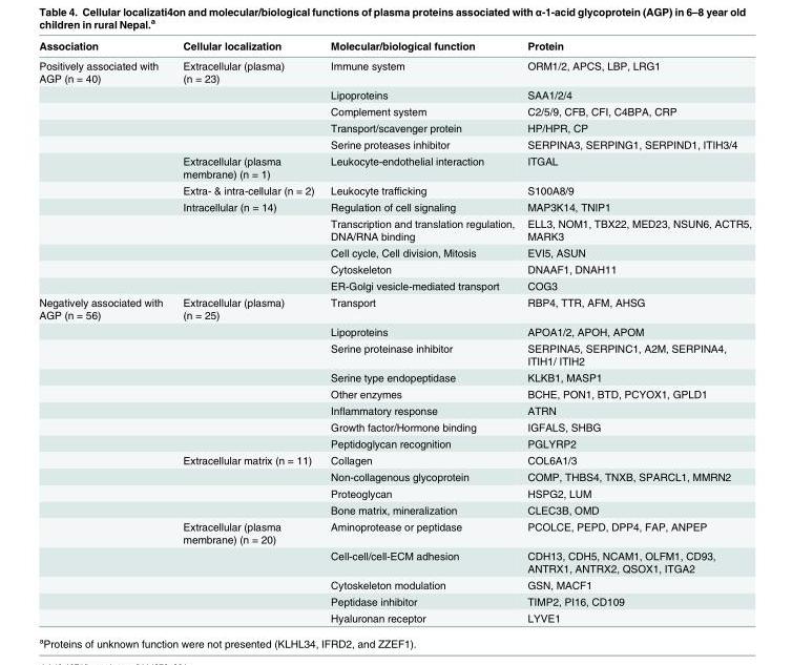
<table><thead><tr><td>Association</td><td>Cellular localization</td><td>Molecular/biological function</td><td>Protein</td></tr></thead><tbody><tr><td rowspan="12">Positively associated with AGP (n = 40)</td><td>Extracellular (plasma) (n = 23)</td><td>Immune system</td><td>ORM1/2, APCS, LBP, LRG1</td></tr><tr><td></td><td>Lipoproteins</td><td>SAA1/2/4</td></tr><tr><td></td><td>Complement system</td><td>C2/5/9, CFB, CFI, C4BPA, CRP</td></tr><tr><td></td><td>Transport/scavenger protein</td><td>HP/HPR, CP</td></tr><tr><td></td><td>Serine proteases inhibitor</td><td>SERPINA3, SERPING1, SERPIND1, ITIH3/4</td></tr><tr><td>Extracellular (plasma membrane) (n = 1)</td><td>Leukocyte-endothelial interaction</td><td>ITGAL</td></tr><tr><td>Extra- &amp; intra-cellular (n = 2)</td><td>Leukocyte trafficking</td><td>S100A8/9</td></tr><tr><td>Intracellular (n = 14)</td><td>Regulation of cell signaling</td><td>MAP3K14, TNIP1</td></tr><tr><td></td><td>Transcription and translation regulation, DNA/RNA binding</td><td>ELL3, NOM1, TBX22, MED23, NSUN6, ACTR5, MARK3</td></tr><tr><td></td><td>Cell cycle, Cell division, Mitosis</td><td>EVI5, ASUN</td></tr><tr><td></td><td>Cytoskeleton</td><td>DNAAF1, DNAH11</td></tr><tr><td></td><td>ER-Golgi vesicle-mediated transport</td><td>COG3</td></tr><tr><td rowspan="17">Negatively associated with AGP (n = 56)</td><td>Extracellular (plasma) (n = 25)</td><td>Transport</td><td>RBP4, TTR, AFM, AHSG</td></tr><tr><td></td><td>Lipoproteins</td><td>APOA1/2, APOH, APOM</td></tr><tr><td></td><td>Serine proteinase inhibitor</td><td>SERPINA5, SERPINC1, A2M, SERPINA4, ITIH1/ ITIH2</td></tr><tr><td></td><td>Serine type endopeptidase</td><td>KLKB1, MASP1</td></tr><tr><td></td><td>Other enzymes</td><td>BCHE, PON1, BTD, PCYOX1, GPLD1</td></tr><tr><td></td><td>Inflammatory response</td><td>ATRN</td></tr><tr><td></td><td>Growth factor/Hormone binding</td><td>IGFALS, SHBG</td></tr><tr><td></td><td>Peptidoglycan recognition</td><td>PGLYRP2</td></tr><tr><td>Extracellular matrix (n = 11)</td><td>Collagen</td><td>COL6A1/3</td></tr><tr><td></td><td>Non-collagenous glycoprotein</td><td>COMP, THBS4, TNXB, SPARCL1, MMRN2</td></tr><tr><td></td><td>Proteoglycan</td><td>HSPG2, LUM</td></tr><tr><td></td><td>Bone matrix, mineralization</td><td>CLEC3B, OMD</td></tr><tr><td>Extracellular (plasma membrane) (n = 20)</td><td>Aminoprotease or peptidase</td><td>PCOLCE, PEPD, DPP4, FAP, ANPEP</td></tr><tr><td></td><td>Cell-cell/cell-ECM adhesion</td><td>CDH13, CDH5, NCAM1, OLFM1, CD93, ANTRX1, ANTRX2, QSOX1, ITGA2</td></tr><tr><td></td><td>Cytoskeleton modulation</td><td>GSN, MACF1</td></tr><tr><td></td><td>Peptidase inhibitor</td><td>TIMP2, PI16, CD109</td></tr><tr><td></td><td>Hyaluronan receptor</td><td>LYVE1</td></tr></tbody></table>